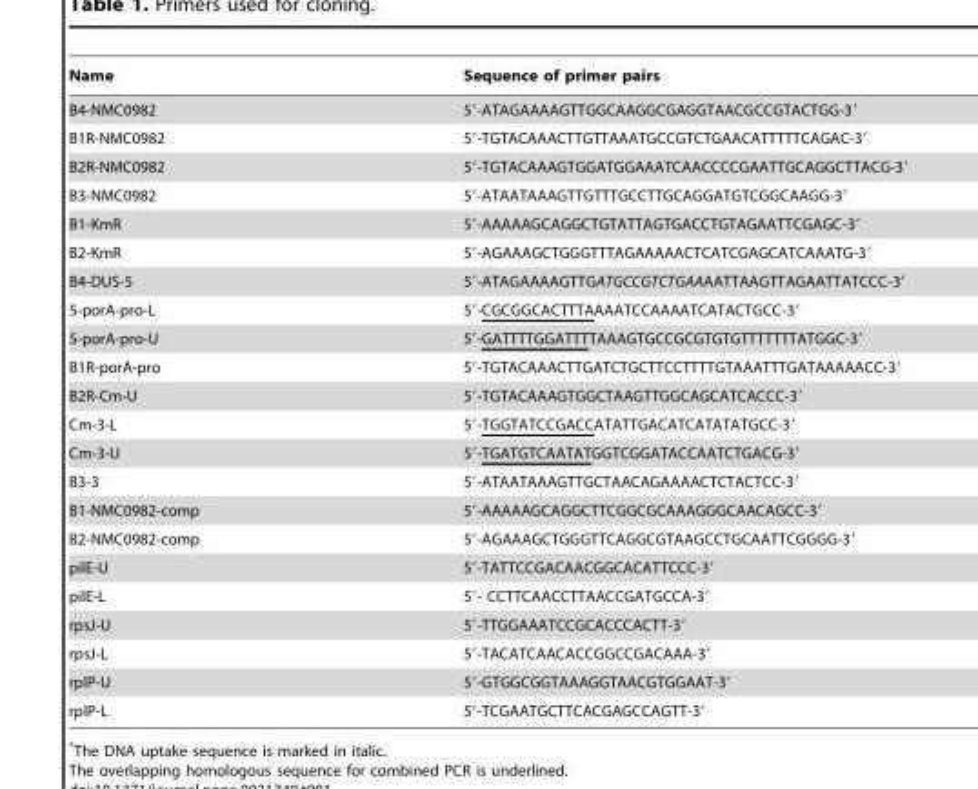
<table><thead><tr><td>Name</td><td>Sequence of primer pairs</td></tr></thead><tbody><tr><td>B4-NMC0982</td><td>5′-ATAGAAAAGTTGGCAAGGCGAGGTAACGCCGTACTGG-3′</td></tr><tr><td>B1R-NMC0982</td><td>5′-TGTACAAACTTGTTAAATGCCGTCTGAACATTTTTCAGAC-3′</td></tr><tr><td>B2R-NMC0982</td><td>5′-TGTACAAAGTGGATGGAAATCAACCCCGAATTGCAGGCTTACG-3′</td></tr><tr><td>B3-NMC0982</td><td>5′-ATAATAAAGTTGTTTGCCTTGCAGGATGTCGGCAAGG-3′</td></tr><tr><td>B1-KmR</td><td>5′-AAAAAGCAGGCTGTATTAGTGACCTGTAGAATTCGAGC-3′</td></tr><tr><td>B2-KmR</td><td>5′-AGAAAGCTGGGTTTAGAAAAACTCATCGAGCATCAAATG-3′</td></tr><tr><td>B4-DUS-5</td><td>5′-ATAGAAAAGTTGATGCCGTCTGAAAATTAAGTTAGAATTATCCC-3′</td></tr><tr><td>5-porA-pro-L</td><td>5′-CGCGGCACTTTAAAATCCAAAATCATACTGCC-3′</td></tr><tr><td>5-porA-pro-U</td><td>5′-GATTTTGGATTTTAAAGTGCCGCGTGTGTTTTTTTATGGC-3′</td></tr><tr><td>B1R-porA-pro</td><td>5′-TGTACAAACTTGATCTGCTTCCTTTTGTAAATTTGATAAAAACC-3′</td></tr><tr><td>B2R-Cm-U</td><td>5′-TGTACAAAGTGGCTAAGTTGGCAGCATCACCC-3′</td></tr><tr><td>Cm-3-L</td><td>5′-TGGTATCCGACCATATTGACATCATATATGCC-3′</td></tr><tr><td>Cm-3-U</td><td>5′-TGATGTCAATATGGTCGGATACCAATCTGACG-3′</td></tr><tr><td>B3-3</td><td>5′-ATAATAAAGTTGCTAACAGAAAACTCTACTCC-3′</td></tr><tr><td>B1-NMC0982-comp</td><td>5′-AAAAAGCAGGCTTCGGCGCAAAGGGCAACAGCC-3′</td></tr><tr><td>B2-NMC0982-comp</td><td>5′-AGAAAGCTGGGTTCAGGCGTAAGCCTGCAATTCGGGG-3′</td></tr><tr><td>pilE-U</td><td>5′-TATTCCGACAACGGCACATTCCC-3′</td></tr><tr><td>pilE-L</td><td>5′- CCTTCAACCTTAACCGATGCCA-3′</td></tr><tr><td>rpsJ-U</td><td>5′-TTGGAAATCCGCACCCACTT-3′</td></tr><tr><td>rpsJ-L</td><td>5′-TACATCAACACCGGCCGACAAA-3′</td></tr><tr><td>rplP-U</td><td>5′-GTGGCGGTAAAGGTAACGTGGAAT-3′</td></tr><tr><td>rplP-L</td><td>5′-TCGAATGCTTCACGAGCCAGTT-3′</td></tr></tbody></table>